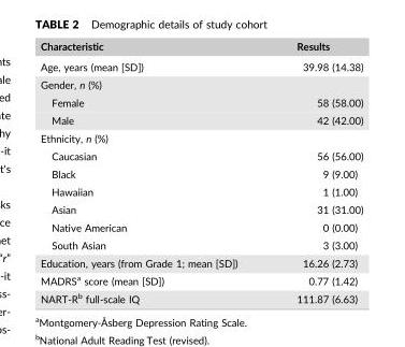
<table><thead><tr><td>Characteristic</td><td>Results</td></tr></thead><tbody><tr><td>Age, years (mean [SD])</td><td>39.98 (14.38)</td></tr><tr><td colspan="2">Gender, n (%)</td></tr><tr><td>Female</td><td>58 (58.00)</td></tr><tr><td>Male</td><td>42 (42.00)</td></tr><tr><td colspan="2">Ethnicity, n (%)</td></tr><tr><td>Caucasian</td><td>56 (56.00)</td></tr><tr><td>Black</td><td>9 (9.00)</td></tr><tr><td>Hawaiian</td><td>1 (1.00)</td></tr><tr><td>Asian</td><td>31 (31.00)</td></tr><tr><td>Native American</td><td>0 (0.00)</td></tr><tr><td>South Asian</td><td>3 (3.00)</td></tr><tr><td>Education, years (from Grade 1; mean [SD])</td><td>16.26 (2.73)</td></tr><tr><td>MADRS<sup>a</sup> score (mean [SD])</td><td>0.77 (1.42)</td></tr><tr><td>NART‐R<sup>b</sup> full‐scale IQ</td><td>111.87 (6.63)</td></tr></tbody></table>